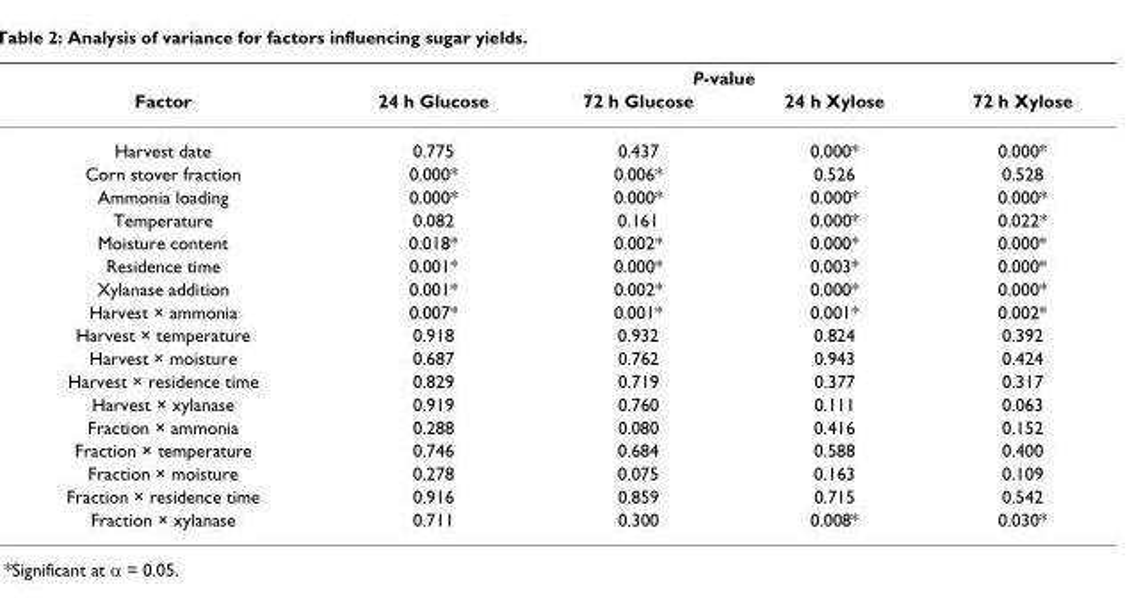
<table><thead><tr><td rowspan="2">Factor</td><td colspan="4">P-value</td></tr><tr><td>24 h Glucose</td><td>72 h Glucose</td><td>24 h Xylose</td><td>72 h Xylose</td></tr></thead><tbody><tr><td>Harvest date</td><td>0.775</td><td>0.437</td><td>0.000*</td><td>0.000*</td></tr><tr><td>Corn stover fraction</td><td>0.000*</td><td>0.006*</td><td>0.526</td><td>0.528</td></tr><tr><td>Ammonia loading</td><td>0.000*</td><td>0.000*</td><td>0.000*</td><td>0.000*</td></tr><tr><td>Temperature</td><td>0.082</td><td>0.161</td><td>0.000*</td><td>0.022*</td></tr><tr><td>Moisture content</td><td>0.018*</td><td>0.002*</td><td>0.000*</td><td>0.000*</td></tr><tr><td>Residence time</td><td>0.001*</td><td>0.000*</td><td>0.003*</td><td>0.000*</td></tr><tr><td>Xylanase addition</td><td>0.001*</td><td>0.002*</td><td>0.000*</td><td>0.000*</td></tr><tr><td>Harvest × ammonia</td><td>0.007*</td><td>0.001*</td><td>0.001*</td><td>0.002*</td></tr><tr><td>Harvest × temperature</td><td>0.918</td><td>0.932</td><td>0.824</td><td>0.392</td></tr><tr><td>Harvest × moisture</td><td>0.687</td><td>0.762</td><td>0.943</td><td>0.424</td></tr><tr><td>Harvest × residence time</td><td>0.829</td><td>0.719</td><td>0.377</td><td>0.317</td></tr><tr><td>Harvest × xylanase</td><td>0.919</td><td>0.760</td><td>0.111</td><td>0.063</td></tr><tr><td>Fraction × ammonia</td><td>0.288</td><td>0.080</td><td>0.416</td><td>0.152</td></tr><tr><td>Fraction × temperature</td><td>0.746</td><td>0.684</td><td>0.588</td><td>0.400</td></tr><tr><td>Fraction × moisture</td><td>0.278</td><td>0.075</td><td>0.163</td><td>0.109</td></tr><tr><td>Fraction × residence time</td><td>0.916</td><td>0.859</td><td>0.715</td><td>0.542</td></tr><tr><td>Fraction × xylanase</td><td>0.711</td><td>0.300</td><td>0.008*</td><td>0.030*</td></tr></tbody></table>